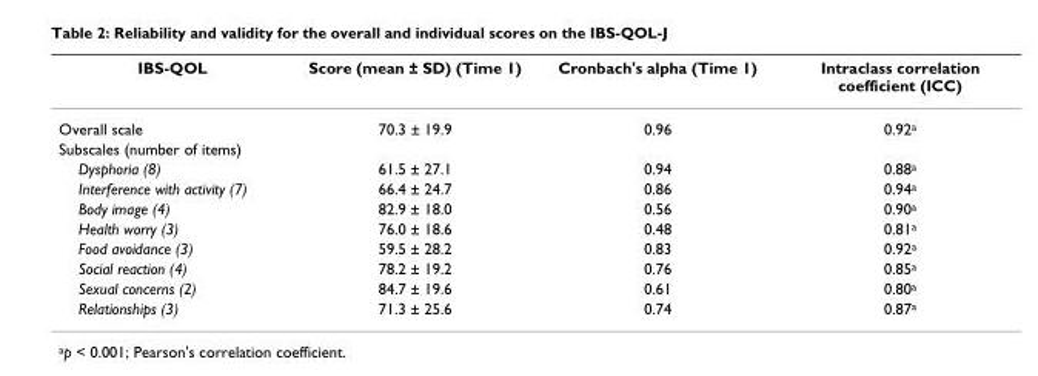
<table><thead><tr><td>IBS-QOL</td><td>Score (mean ± SD) (Time 1)</td><td>Cronbach&#x27;s alpha (Time 1)</td><td>Intraclass correlation coefficient (ICC)</td></tr></thead><tbody><tr><td>Overall scale</td><td>70.3 ± 19.9</td><td>0.96</td><td>0.92<sup>a</sup></td></tr><tr><td colspan="4">Subscales (number of items)</td></tr><tr><td>Dysphoria (8)</td><td>61.5 ± 27.1</td><td>0.94</td><td>0.88<sup>a</sup></td></tr><tr><td>Interference with activity (7)</td><td>66.4 ± 24.7</td><td>0.86</td><td>0.94<sup>a</sup></td></tr><tr><td>Body image (4)</td><td>82.9 ± 18.0</td><td>0.56</td><td>0.90<sup>a</sup></td></tr><tr><td>Health worry (3)</td><td>76.0 ± 18.6</td><td>0.48</td><td>0.81<sup>a</sup></td></tr><tr><td>Food avoidance (3)</td><td>59.5 ± 28.2</td><td>0.83</td><td>0.92<sup>a</sup></td></tr><tr><td>Social reaction (4)</td><td>78.2 ± 19.2</td><td>0.76</td><td>0.85<sup>a</sup></td></tr><tr><td>Sexual concerns (2)</td><td>84.7 ± 19.6</td><td>0.61</td><td>0.80<sup>a</sup></td></tr><tr><td>Relationships (3)</td><td>71.3 ± 25.6</td><td>0.74</td><td>0.87<sup>a</sup></td></tr></tbody></table>